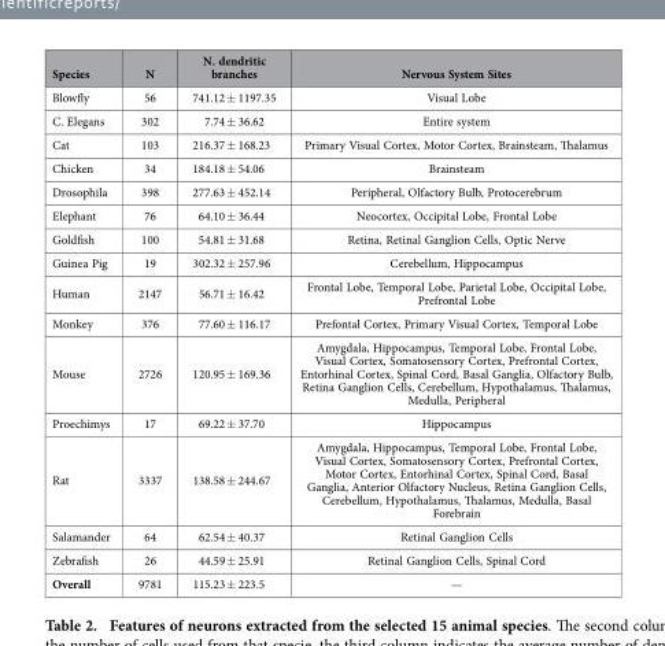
<table><thead><tr><td>Species</td><td>N</td><td>N. dendritic branches</td><td>Nervous System Sites</td></tr></thead><tbody><tr><td>Blowfly</td><td>56</td><td>741.12 ± 1197.35</td><td>Visual Lobe</td></tr><tr><td>C. Elegans</td><td>302</td><td>7.74 ± 36.62</td><td>Entire system</td></tr><tr><td>Cat</td><td>103</td><td>216.37 ± 168.23</td><td>Primary Visual Cortex, Motor Cortex, Brainsteam, Thalamus</td></tr><tr><td>Chicken</td><td>34</td><td>184.18 ± 54.06</td><td>Brainsteam</td></tr><tr><td>Drosophila</td><td>398</td><td>277.63 ± 452.14</td><td>Peripheral, Olfactory Bulb, Protocerebrum</td></tr><tr><td>Elephant</td><td>76</td><td>64.10 ± 36.44</td><td>Neocortex, Occipital Lobe, Frontal Lobe</td></tr><tr><td>Goldfish</td><td>100</td><td>54.81 ± 31.68</td><td>Retina, Retinal Ganglion Cells, Optic Nerve</td></tr><tr><td>Guinea Pig</td><td>19</td><td>302.32 ± 257.96</td><td>Cerebellum, Hippocampus</td></tr><tr><td>Human</td><td>2147</td><td>56.71 ± 16.42</td><td>Frontal Lobe, Temporal Lobe, Parietal Lobe, Occipital Lobe, Prefrontal Lobe</td></tr><tr><td>Monkey</td><td>376</td><td>77.60 ± 116.17</td><td>Prefontal Cortex, Primary Visual Cortex, Temporal Lobe</td></tr><tr><td>Mouse</td><td>2726</td><td>120.95 ± 169.36</td><td>Amygdala, Hippocampus, Temporal Lobe, Frontal Lobe, Visual Cortex, Somatosensory Cortex, Prefrontal Cortex, Entorhinal Cortex, Spinal Cord, Basal Ganglia, Olfactory Bulb, Retina Ganglion Cells, Cerebellum, Hypothalamus, Thalamus, Medulla, Peripheral</td></tr><tr><td>Proechimys</td><td>17</td><td>69.22 ± 37.70</td><td>Hippocampus</td></tr><tr><td>Rat</td><td>3337</td><td>138.58 ± 244.67</td><td>Amygdala, Hippocampus, Temporal Lobe, Frontal Lobe, Visual Cortex, Somatosensory Cortex, Prefrontal Cortex, Motor Cortex, Entorhinal Cortex, Spinal Cord, Basal Ganglia, Anterior Olfactory Nucleus, Retina Ganglion Cells, Cerebellum, Hypothalamus, Thalamus, Medulla, Basal Forebrain</td></tr><tr><td>Salamander</td><td>64</td><td>62.54 ± 40.37</td><td>Retinal Ganglion Cells</td></tr><tr><td>Zebrafish</td><td>26</td><td>44.59 ± 25.91</td><td>Retinal Ganglion Cells, Spinal Cord</td></tr><tr><td>Overall</td><td>9781</td><td>115.23 ± 223.5</td><td>—</td></tr></tbody></table>